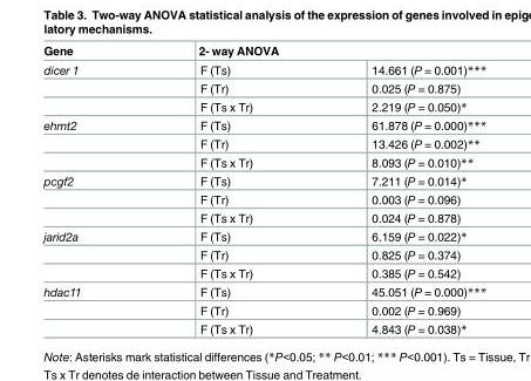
<table><thead><tr><td rowspan="2">Gene dicer 1</td><td colspan="2">2- way ANOVA</td></tr><tr><td>F (Ts)</td><td>14.661 (P = 0.001)***</td></tr></thead><tbody><tr><td></td><td>F (Tr)</td><td>0.025 (P = 0.875)</td></tr><tr><td></td><td>F (Ts x Tr)</td><td>2.219 (P = 0.050)*</td></tr><tr><td rowspan="3">ehmt2</td><td>F (Ts)</td><td>61.878 (P = 0.000)***</td></tr><tr><td>F (Tr)</td><td>13.426 (P = 0.002)**</td></tr><tr><td>F (Ts x Tr)</td><td>8.093 (P = 0.010)**</td></tr><tr><td rowspan="3">pcgf2</td><td>F (Ts)</td><td>7.211 (P = 0.014)*</td></tr><tr><td>F (Tr)</td><td>0.003 (P = 0.096)</td></tr><tr><td>F (Ts x Tr)</td><td>0.024 (P = 0.878)</td></tr><tr><td rowspan="3">jarid2a</td><td>F (Ts)</td><td>6.159 (P = 0.022)*</td></tr><tr><td>F (Tr)</td><td>0.825 (P = 0.374)</td></tr><tr><td>F (Ts x Tr)</td><td>0.385 (P = 0.542)</td></tr><tr><td rowspan="3">hdac11</td><td>F (Ts)</td><td>45.051 (P = 0.000)***</td></tr><tr><td>F (Tr)</td><td>0.002 (P = 0.969)</td></tr><tr><td>F (Ts x Tr)</td><td>4.843 (P = 0.038)*</td></tr></tbody></table>